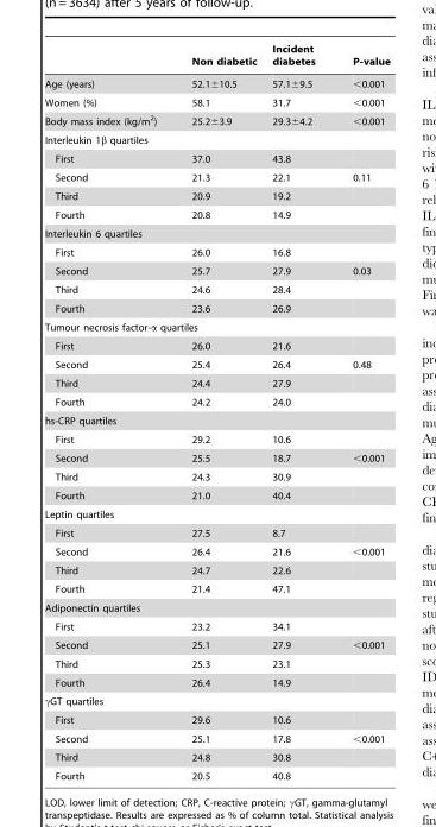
<table><thead><tr><td></td><td>Non diabetic</td><td>Incident diabetes</td><td>P-value</td></tr></thead><tbody><tr><td>Age (years)</td><td>52.1±10.5</td><td>57.1±9.5</td><td>&lt;0.001</td></tr><tr><td>Women (%)</td><td>58.1</td><td>31.7</td><td>&lt;0.001</td></tr><tr><td>Body mass index (kg/m<sup>2</sup>)</td><td>25.2±3.9</td><td>29.3±4.2</td><td>&lt;0.001</td></tr><tr><td colspan="4">Interleukin 1β quartiles</td></tr><tr><td>First</td><td>37.0</td><td>43.8</td><td></td></tr><tr><td>Second</td><td>21.3</td><td>22.1</td><td>0.11</td></tr><tr><td>Third</td><td>20.9</td><td>19.2</td><td></td></tr><tr><td>Fourth</td><td>20.8</td><td>14.9</td><td></td></tr><tr><td colspan="4">Interleukin 6 quartiles</td></tr><tr><td>First</td><td>26.0</td><td>16.8</td><td></td></tr><tr><td>Second</td><td>25.7</td><td>27.9</td><td>0.03</td></tr><tr><td>Third</td><td>24.6</td><td>28.4</td><td></td></tr><tr><td>Fourth</td><td>23.6</td><td>26.9</td><td></td></tr><tr><td colspan="4">Tumour necrosis factor-α quartiles</td></tr><tr><td>First</td><td>26.0</td><td>21.6</td><td></td></tr><tr><td>Second</td><td>25.4</td><td>26.4</td><td>0.48</td></tr><tr><td>Third</td><td>24.4</td><td>27.9</td><td></td></tr><tr><td>Fourth</td><td>24.2</td><td>24.0</td><td></td></tr><tr><td colspan="4">hs-CRP quartiles</td></tr><tr><td>First</td><td>29.2</td><td>10.6</td><td></td></tr><tr><td>Second</td><td>25.5</td><td>18.7</td><td>&lt;0.001</td></tr><tr><td>Third</td><td>24.3</td><td>30.9</td><td></td></tr><tr><td>Fourth</td><td>21.0</td><td>40.4</td><td></td></tr><tr><td colspan="4">Leptin quartiles</td></tr><tr><td>First</td><td>27.5</td><td>8.7</td><td></td></tr><tr><td>Second</td><td>26.4</td><td>21.6</td><td>&lt;0.001</td></tr><tr><td>Third</td><td>24.7</td><td>22.6</td><td></td></tr><tr><td>Fourth</td><td>21.4</td><td>47.1</td><td></td></tr><tr><td colspan="4">Adiponectin quartiles</td></tr><tr><td>First</td><td>23.2</td><td>34.1</td><td></td></tr><tr><td>Second</td><td>25.1</td><td>27.9</td><td>&lt;0.001</td></tr><tr><td>Third</td><td>25.3</td><td>23.1</td><td></td></tr><tr><td>Fourth</td><td>26.4</td><td>14.9</td><td></td></tr><tr><td colspan="4">γGT quartiles</td></tr><tr><td>First</td><td>29.6</td><td>10.6</td><td></td></tr><tr><td>Second</td><td>25.1</td><td>17.8</td><td>&lt;0.001</td></tr><tr><td>Third</td><td>24.8</td><td>30.8</td><td></td></tr><tr><td>Fourth</td><td>20.5</td><td>40.8</td><td></td></tr></tbody></table>